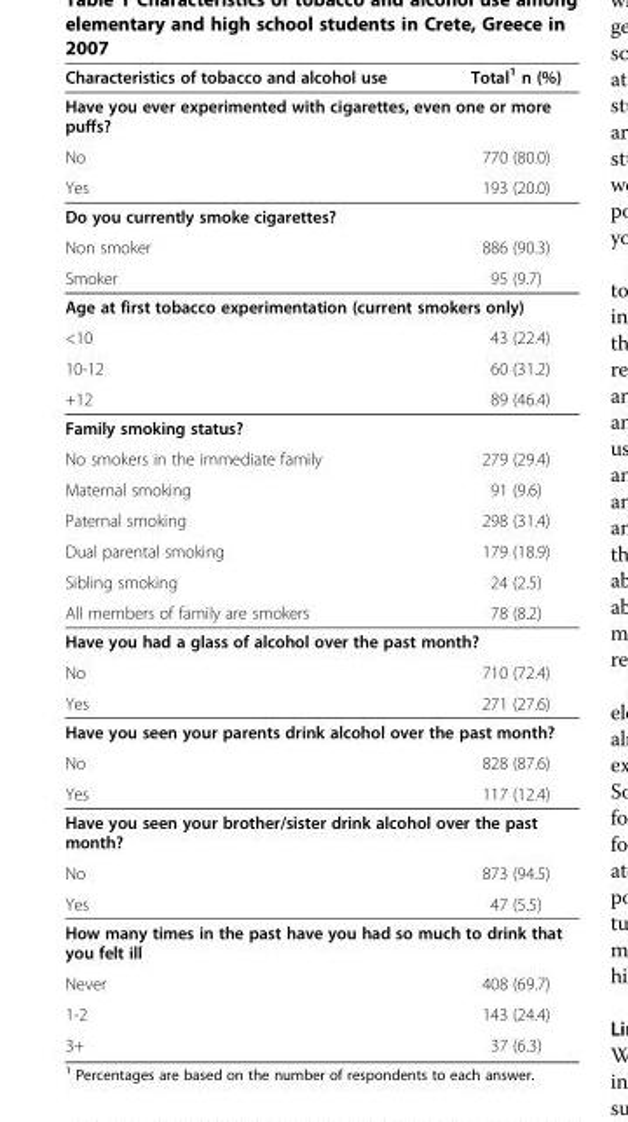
<table><thead><tr><td>Characteristics of tobacco and alcohol use</td><td>Total<sup>1</sup> n (%)</td></tr></thead><tbody><tr><td colspan="2">Have you ever experimented with cigarettes, even one or more puffs?</td></tr><tr><td>No</td><td>770 (80.0)</td></tr><tr><td>Yes</td><td>193 (20.0)</td></tr><tr><td colspan="2">Do you currently smoke cigarettes?</td></tr><tr><td>Non smoker</td><td>886 (90.3)</td></tr><tr><td>Smoker</td><td>95 (9.7)</td></tr><tr><td colspan="2">Age at first tobacco experimentation (current smokers only)</td></tr><tr><td>&lt;10</td><td>43 (22.4)</td></tr><tr><td>10-12</td><td>60 (31.2)</td></tr><tr><td>+12</td><td>89 (46.4)</td></tr><tr><td colspan="2">Family smoking status?</td></tr><tr><td>No smokers in the immediate family</td><td>279 (29.4)</td></tr><tr><td>Maternal smoking</td><td>91 (9.6)</td></tr><tr><td>Paternal smoking</td><td>298 (31.4)</td></tr><tr><td>Dual parental smoking</td><td>179 (18.9)</td></tr><tr><td>Sibling smoking</td><td>24 (2.5)</td></tr><tr><td>All members of family are smokers</td><td>78 (8.2)</td></tr><tr><td colspan="2">Have you had a glass of alcohol over the past month?</td></tr><tr><td>No</td><td>710 (72.4)</td></tr><tr><td>Yes</td><td>271 (27.6)</td></tr><tr><td colspan="2">Have you seen your parents drink alcohol over the past month?</td></tr><tr><td>No</td><td>828 (87.6)</td></tr><tr><td>Yes</td><td>117 (12.4)</td></tr><tr><td colspan="2">Have you seen your brother/sister drink alcohol over the past month?</td></tr><tr><td>No</td><td>873 (94.5)</td></tr><tr><td>Yes</td><td>47 (5.5)</td></tr><tr><td colspan="2">How many times in the past have you had so much to drink that you felt ill</td></tr><tr><td>Never</td><td>408 (69.7)</td></tr><tr><td>1-2</td><td>143 (24.4)</td></tr><tr><td>3+</td><td>37 (6.3)</td></tr></tbody></table>